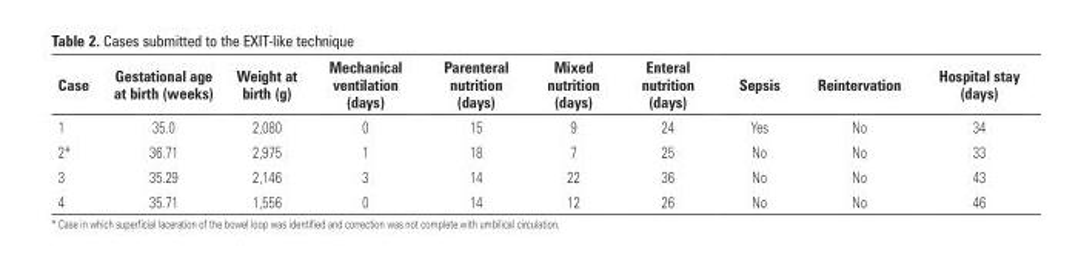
<table><thead><tr><td>Case</td><td>Gestational age at birth (weeks)</td><td>Weight at birth (g)</td><td>Mechanical ventilation (days)</td><td>Parenteral nutrition (days)</td><td>Mixed nutrition (days)</td><td>Enteral nutrition (days)</td><td>Sepsis</td><td>Reintervation</td><td>Hospital stay (days)</td></tr></thead><tbody><tr><td>1</td><td>35.0</td><td>2,080</td><td>0</td><td>15</td><td>9</td><td>24</td><td>Yes</td><td>No</td><td>34</td></tr><tr><td>2*</td><td>36.71</td><td>2,975</td><td>1</td><td>18</td><td>7</td><td>25</td><td>No</td><td>No</td><td>33</td></tr><tr><td>3</td><td>35.29</td><td>2,146</td><td>3</td><td>14</td><td>22</td><td>36</td><td>No</td><td>No</td><td>43</td></tr><tr><td>4</td><td>35.71</td><td>1,556</td><td>0</td><td>14</td><td>12</td><td>26</td><td>No</td><td>No</td><td>46</td></tr></tbody></table>